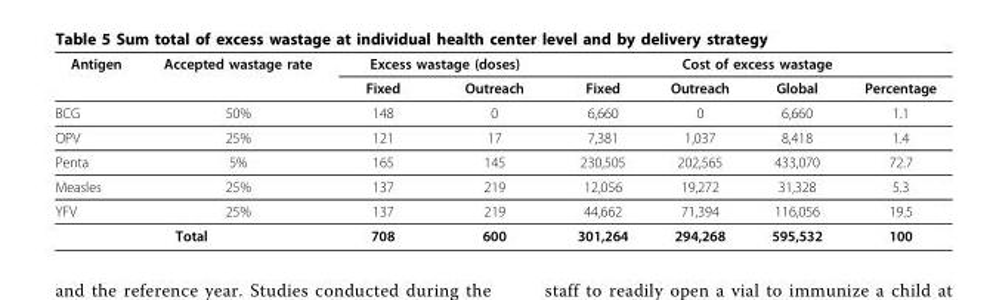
<table><thead><tr><td rowspan="2">Antigen</td><td rowspan="2">Accepted wastage rate</td><td colspan="2">Excess wastage (doses)</td><td colspan="4">Cost of excess wastage</td></tr><tr><td>Fixed</td><td>Outreach</td><td>Fixed</td><td>Outreach</td><td>Global</td><td>Percentage</td></tr></thead><tbody><tr><td>BCG</td><td>50%</td><td>148</td><td>0</td><td>6,660</td><td>0</td><td>6,660</td><td>1.1</td></tr><tr><td>OPV</td><td>25%</td><td>121</td><td>17</td><td>7,381</td><td>1,037</td><td>8,418</td><td>1.4</td></tr><tr><td>Penta</td><td>5%</td><td>165</td><td>145</td><td>230,505</td><td>202,565</td><td>433,070</td><td>72.7</td></tr><tr><td>Measles</td><td>25%</td><td>137</td><td>219</td><td>12,056</td><td>19,272</td><td>31,328</td><td>5.3</td></tr><tr><td>YFV</td><td>25%</td><td>137</td><td>219</td><td>44,662</td><td>71,394</td><td>116,056</td><td>19.5</td></tr><tr><td colspan="2">Total</td><td>708</td><td>600</td><td>301,264</td><td>294,268</td><td>595,532</td><td>100</td></tr></tbody></table>